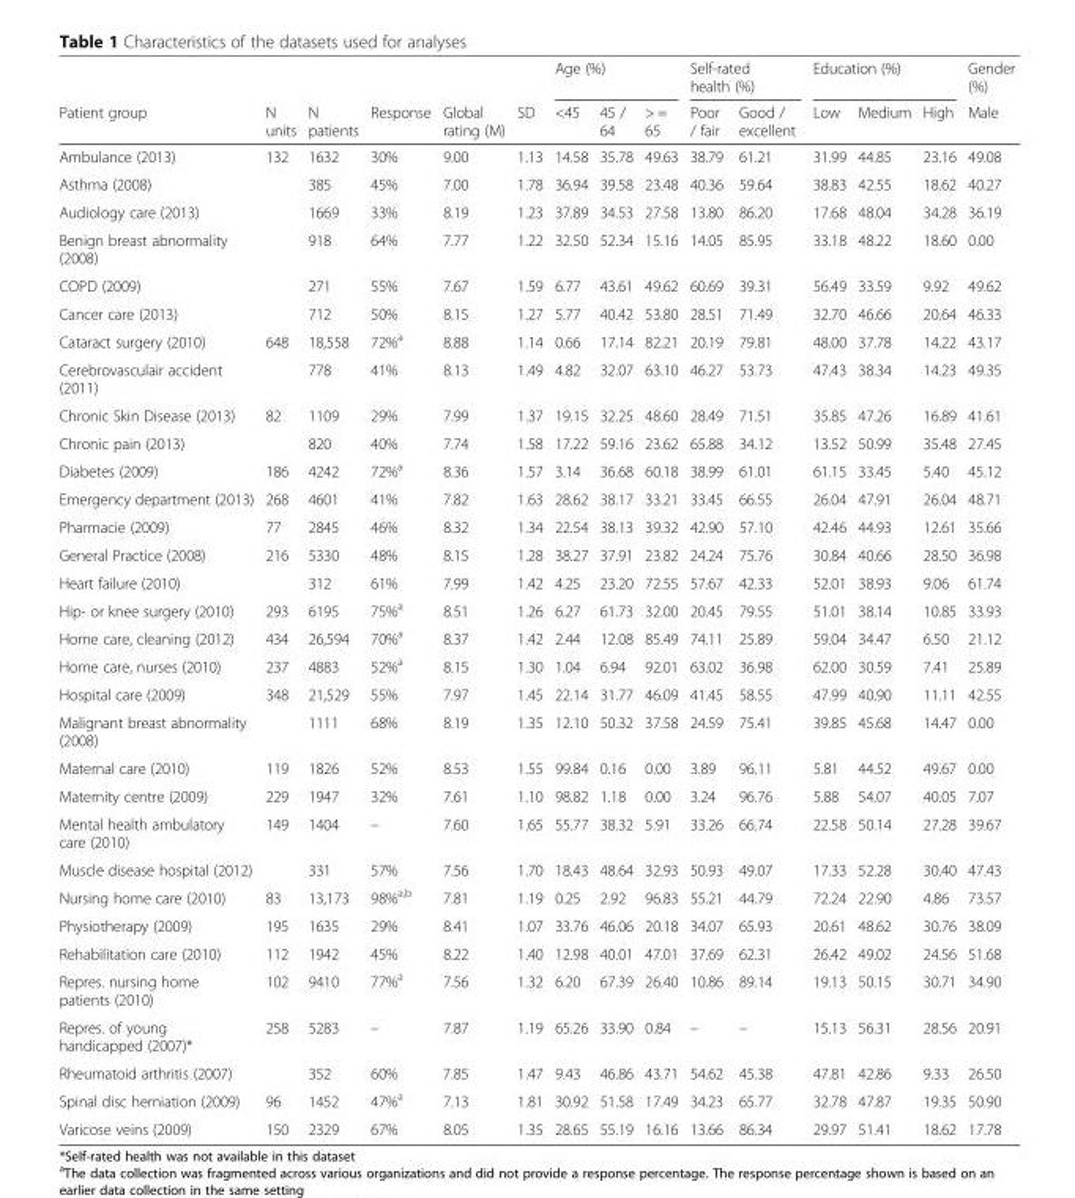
<table><thead><tr><td rowspan="2">Patient group</td><td rowspan="2">N units</td><td rowspan="2">N patients</td><td rowspan="2">Response</td><td rowspan="2">Global rating (M)</td><td rowspan="2">SD</td><td colspan="3">Age (%)</td><td colspan="2">Self-rated health (%)</td><td colspan="3">Education (%)</td><td rowspan="2">Gender (%) Male</td></tr><tr><td>&lt;45</td><td>45 / 64</td><td>&gt; = 65</td><td>Poor / fair</td><td>Good / excellent</td><td>Low</td><td>Medium</td><td>High</td></tr></thead><tbody><tr><td>Ambulance (2013)</td><td>132</td><td>1632</td><td>30%</td><td>9.00</td><td>1.13</td><td>14.58</td><td>35.78</td><td>49.63</td><td>38.79</td><td>61.21</td><td>31.99</td><td>44.85</td><td>23.16</td><td>49.08</td></tr><tr><td>Asthma (2008)</td><td></td><td>385</td><td>45%</td><td>7.00</td><td>1.78</td><td>36.94</td><td>39.58</td><td>23.48</td><td>40.36</td><td>59.64</td><td>38.83</td><td>42.55</td><td>18.62</td><td>40.27</td></tr><tr><td>Audiology care (2013)</td><td></td><td>1669</td><td>33%</td><td>8.19</td><td>1.23</td><td>37.89</td><td>34.53</td><td>27.58</td><td>13.80</td><td>86.20</td><td>17.68</td><td>48.04</td><td>34.28</td><td>36.19</td></tr><tr><td>Benign breast abnormality (2008)</td><td></td><td>918</td><td>64%</td><td>7.77</td><td>1.22</td><td>32.50</td><td>52.34</td><td>15.16</td><td>14.05</td><td>85.95</td><td>33.18</td><td>48.22</td><td>18.60</td><td>0.00</td></tr><tr><td>COPD (2009)</td><td></td><td>271</td><td>55%</td><td>7.67</td><td>1.59</td><td>6.77</td><td>43.61</td><td>49.62</td><td>60.69</td><td>39.31</td><td>56.49</td><td>33.59</td><td>9.92</td><td>49.62</td></tr><tr><td>Cancer care (2013)</td><td></td><td>712</td><td>50%</td><td>8.15</td><td>1.27</td><td>5.77</td><td>40.42</td><td>53.80</td><td>28.51</td><td>71.49</td><td>32.70</td><td>46.66</td><td>20.64</td><td>46.33</td></tr><tr><td>Cataract surgery (2010)</td><td>648</td><td>18,558</td><td>72%<sup>a</sup></td><td>8.88</td><td>1.14</td><td>0.66</td><td>17.14</td><td>82.21</td><td>20.19</td><td>79.81</td><td>48.00</td><td>37.78</td><td>14.22</td><td>43.17</td></tr><tr><td>Cerebrovasculair accident (2011)</td><td></td><td>778</td><td>41%</td><td>8.13</td><td>1.49</td><td>4.82</td><td>32.07</td><td>63.10</td><td>46.27</td><td>53.73</td><td>47.43</td><td>38.34</td><td>14.23</td><td>49.35</td></tr><tr><td>Chronic Skin Disease (2013)</td><td>82</td><td>1109</td><td>29%</td><td>7.99</td><td>1.37</td><td>19.15</td><td>32.25</td><td>48.60</td><td>28.49</td><td>71.51</td><td>35.85</td><td>47.26</td><td>16.89</td><td>41.61</td></tr><tr><td>Chronic pain (2013)</td><td></td><td>820</td><td>40%</td><td>7.74</td><td>1.58</td><td>17.22</td><td>59.16</td><td>23.62</td><td>65.88</td><td>34.12</td><td>13.52</td><td>50.99</td><td>35.48</td><td>27.45</td></tr><tr><td>Diabetes (2009)</td><td>186</td><td>4242</td><td>72%<sup>a</sup></td><td>8.36</td><td>1.57</td><td>3.14</td><td>36.68</td><td>60.18</td><td>38.99</td><td>61.01</td><td>61.15</td><td>33.45</td><td>5.40</td><td>45.12</td></tr><tr><td>Emergency department (2013)</td><td>268</td><td>4601</td><td>41%</td><td>7.82</td><td>1.63</td><td>28.62</td><td>38.17</td><td>33.21</td><td>33.45</td><td>66.55</td><td>26.04</td><td>47.91</td><td>26.04</td><td>48.71</td></tr><tr><td>Pharmacie (2009)</td><td>77</td><td>2845</td><td>46%</td><td>8.32</td><td>1.34</td><td>22.54</td><td>38.13</td><td>39.32</td><td>42.90</td><td>57.10</td><td>42.46</td><td>44.93</td><td>12.61</td><td>35.66</td></tr><tr><td>General Practice (2008)</td><td>216</td><td>5330</td><td>48%</td><td>8.15</td><td>1.28</td><td>38.27</td><td>37.91</td><td>23.82</td><td>24.24</td><td>75.76</td><td>30.84</td><td>40.66</td><td>28.50</td><td>36.98</td></tr><tr><td>Heart failure (2010)</td><td></td><td>312</td><td>61%</td><td>7.99</td><td>1.42</td><td>4.25</td><td>23.20</td><td>72.55</td><td>57.67</td><td>42.33</td><td>52.01</td><td>38.93</td><td>9.06</td><td>61.74</td></tr><tr><td>Hip- or knee surgery (2010)</td><td>293</td><td>6195</td><td>75%<sup>a</sup></td><td>8.51</td><td>1.26</td><td>6.27</td><td>61.73</td><td>32.00</td><td>20.45</td><td>79.55</td><td>51.01</td><td>38.14</td><td>10.85</td><td>33.93</td></tr><tr><td>Home care, cleaning (2012)</td><td>434</td><td>26,594</td><td>70%<sup>a</sup></td><td>8.37</td><td>1.42</td><td>2.44</td><td>12.08</td><td>85.49</td><td>74.11</td><td>25.89</td><td>59.04</td><td>34.47</td><td>6.50</td><td>21.12</td></tr><tr><td>Home care, nurses (2010)</td><td>237</td><td>4883</td><td>52%<sup>a</sup></td><td>8.15</td><td>1.30</td><td>1.04</td><td>6.94</td><td>92.01</td><td>63.02</td><td>36.98</td><td>62.00</td><td>30.59</td><td>7.41</td><td>25.89</td></tr><tr><td>Hospital care (2009)</td><td>348</td><td>21,529</td><td>55%</td><td>7.97</td><td>1.45</td><td>22.14</td><td>31.77</td><td>46.09</td><td>41.45</td><td>58.55</td><td>47.99</td><td>40.90</td><td>11.11</td><td>42.55</td></tr><tr><td>Malignant breast abnormality (2008)</td><td></td><td>1111</td><td>68%</td><td>8.19</td><td>1.35</td><td>12.10</td><td>50.32</td><td>37.58</td><td>24.59</td><td>75.41</td><td>39.85</td><td>45.68</td><td>14.47</td><td>0.00</td></tr><tr><td>Maternal care (2010)</td><td>119</td><td>1826</td><td>52%</td><td>8.53</td><td>1.55</td><td>99.84</td><td>0.16</td><td>0.00</td><td>3.89</td><td>96.11</td><td>5.81</td><td>44.52</td><td>49.67</td><td>0.00</td></tr><tr><td>Maternity centre (2009)</td><td>229</td><td>1947</td><td>32%</td><td>7.61</td><td>1.10</td><td>98.82</td><td>1.18</td><td>0.00</td><td>3.24</td><td>96.76</td><td>5.88</td><td>54.07</td><td>40.05</td><td>7.07</td></tr><tr><td>Mental health ambulatory care (2010)</td><td>149</td><td>1404</td><td>–</td><td>7.60</td><td>1.65</td><td>55.77</td><td>38.32</td><td>5.91</td><td>33.26</td><td>66.74</td><td>22.58</td><td>50.14</td><td>27.28</td><td>39.67</td></tr><tr><td>Muscle disease hospital (2012)</td><td></td><td>331</td><td>57%</td><td>7.56</td><td>1.70</td><td>18.43</td><td>48.64</td><td>32.93</td><td>50.93</td><td>49.07</td><td>17.33</td><td>52.28</td><td>30.40</td><td>47.43</td></tr><tr><td>Nursing home care (2010)</td><td>83</td><td>13,173</td><td>98%<sup>a,b</sup></td><td>7.81</td><td>1.19</td><td>0.25</td><td>2.92</td><td>96.83</td><td>55.21</td><td>44.79</td><td>72.24</td><td>22.90</td><td>4.86</td><td>73.57</td></tr><tr><td>Physiotherapy (2009)</td><td>195</td><td>1635</td><td>29%</td><td>8.41</td><td>1.07</td><td>33.76</td><td>46.06</td><td>20.18</td><td>34.07</td><td>65.93</td><td>20.61</td><td>48.62</td><td>30.76</td><td>38.09</td></tr><tr><td>Rehabilitation care (2010)</td><td>112</td><td>1942</td><td>45%</td><td>8.22</td><td>1.40</td><td>12.98</td><td>40.01</td><td>47.01</td><td>37.69</td><td>62.31</td><td>26.42</td><td>49.02</td><td>24.56</td><td>51.68</td></tr><tr><td>Repres. nursing home patients (2010)</td><td>102</td><td>9410</td><td>77%<sup>a</sup></td><td>7.56</td><td>1.32</td><td>6.20</td><td>67.39</td><td>26.40</td><td>10.86</td><td>89.14</td><td>19.13</td><td>50.15</td><td>30.71</td><td>34.90</td></tr><tr><td>Repres. of young handicapped (2007)*</td><td>258</td><td>5283</td><td>–</td><td>7.87</td><td>1.19</td><td>65.26</td><td>33.90</td><td>0.84</td><td>–</td><td>–</td><td>15.13</td><td>56.31</td><td>28.56</td><td>20.91</td></tr><tr><td>Rheumatoid arthritis (2007)</td><td></td><td>352</td><td>60%</td><td>7.85</td><td>1.47</td><td>9.43</td><td>46.86</td><td>43.71</td><td>54.62</td><td>45.38</td><td>47.81</td><td>42.86</td><td>9.33</td><td>26.50</td></tr><tr><td>Spinal disc herniation (2009)</td><td>96</td><td>1452</td><td>47%<sup>a</sup></td><td>7.13</td><td>1.81</td><td>30.92</td><td>51.58</td><td>17.49</td><td>34.23</td><td>65.77</td><td>32.78</td><td>47.87</td><td>19.35</td><td>50.90</td></tr><tr><td>Varicose veins (2009)</td><td>150</td><td>2329</td><td>67%</td><td>8.05</td><td>1.35</td><td>28.65</td><td>55.19</td><td>16.16</td><td>13.66</td><td>86.34</td><td>29.97</td><td>51.41</td><td>18.62</td><td>17.78</td></tr></tbody></table>